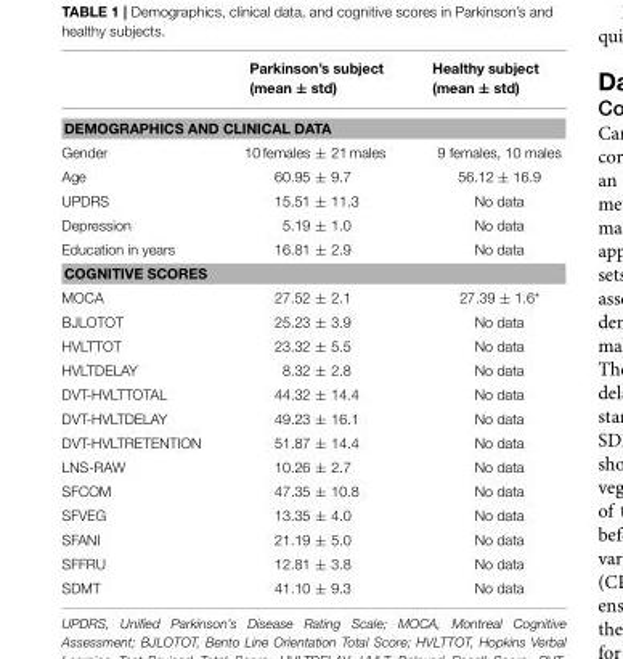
<table><thead><tr><td></td><td>Parkinson’s subject (mean ± std)</td><td>Healthy subject (mean ± std)</td></tr></thead><tbody><tr><td colspan="3">DEMOGRAPHICS AND CLINICAL DATA</td></tr><tr><td>Gender</td><td>10 females ± 21 males</td><td>9 females, 10 males</td></tr><tr><td>Age</td><td>60.95 ± 9.7</td><td>56.12 ± 16.9</td></tr><tr><td>UPDRS</td><td>15.51 ± 11.3</td><td>No data</td></tr><tr><td>Depression</td><td>5.19 ± 1.0</td><td>No data</td></tr><tr><td>Education in years</td><td>16.81 ± 2.9</td><td>No data</td></tr><tr><td colspan="3">COGNITIVE SCORES</td></tr><tr><td>MOCA</td><td>27.52 ± 2.1</td><td>27.39 ± 1.6*</td></tr><tr><td>BJLOTOT</td><td>25.23 ± 3.9</td><td>No data</td></tr><tr><td>HVLTTOT</td><td>23.32 ± 5.5</td><td>No data</td></tr><tr><td>HVLTDELAY</td><td>8.32 ± 2.8</td><td>No data</td></tr><tr><td>DVT-HVLTTOTAL</td><td>44.32 ± 14.4</td><td>No data</td></tr><tr><td>DVT-HVLTDELAY</td><td>49.23 ± 16.1</td><td>No data</td></tr><tr><td>DVT-HVLTRETENTION</td><td>51.87 ± 14.4</td><td>No data</td></tr><tr><td>LNS-RAW</td><td>10.26 ± 2.7</td><td>No data</td></tr><tr><td>SFCOM</td><td>47.35 ± 10.8</td><td>No data</td></tr><tr><td>SFVEG</td><td>13.35 ± 4.0</td><td>No data</td></tr><tr><td>SFANI</td><td>21.19 ± 5.0</td><td>No data</td></tr><tr><td>SFFRU</td><td>12.81 ± 3.8</td><td>No data</td></tr><tr><td>SDMT</td><td>41.10 ± 9.3</td><td>No data</td></tr></tbody></table>